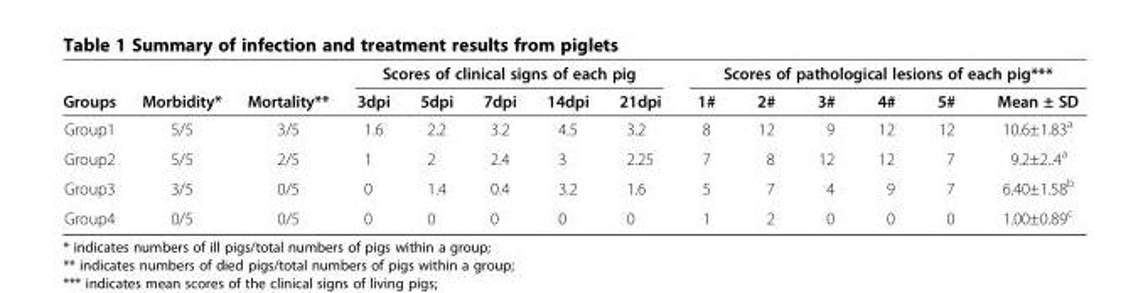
<table><thead><tr><td rowspan="2">Groups</td><td rowspan="2">Morbidity*</td><td rowspan="2">Mortality**</td><td colspan="5">Scores of clinical signs of each pig</td><td colspan="6">Scores of pathological lesions of each pig***</td></tr><tr><td>3dpi</td><td>5dpi</td><td>7dpi</td><td>14dpi</td><td>21dpi</td><td>1#</td><td>2#</td><td>3#</td><td>4#</td><td>5#</td><td>Mean ± SD</td></tr></thead><tbody><tr><td>Group1</td><td>5/5</td><td>3/5</td><td>1.6</td><td>2.2</td><td>3.2</td><td>4.5</td><td>3.2</td><td>8</td><td>12</td><td>9</td><td>12</td><td>12</td><td>10.6±1.83<sup>a</sup></td></tr><tr><td>Group2</td><td>5/5</td><td>2/5</td><td>1</td><td>2</td><td>2.4</td><td>3</td><td>2.25</td><td>7</td><td>8</td><td>12</td><td>12</td><td>7</td><td>9.2±2..4<sup>a</sup></td></tr><tr><td>Group3</td><td>3/5</td><td>0/5</td><td>0</td><td>1.4</td><td>0.4</td><td>3.2</td><td>1.6</td><td>5</td><td>7</td><td>4</td><td>9</td><td>7</td><td>6.40±1.58<sup>b</sup></td></tr><tr><td>Group4</td><td>0/5</td><td>0/5</td><td>0</td><td>0</td><td>0</td><td>0</td><td>0</td><td>1</td><td>2</td><td>0</td><td>0</td><td>0</td><td>1.00±0.89<sup>c</sup></td></tr></tbody></table>